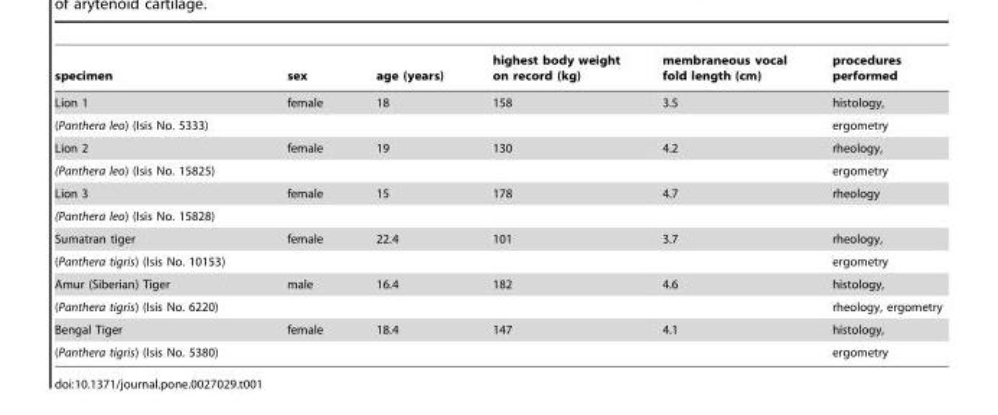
<table><thead><tr><td>specimen</td><td>sex</td><td>age (years)</td><td>highest body weight on record (kg)</td><td>membraneous vocal fold length (cm)</td><td>procedures performed</td></tr></thead><tbody><tr><td>Lion 1</td><td>female</td><td>18</td><td>158</td><td>3.5</td><td>histology,</td></tr><tr><td>(Panthera leo) (Isis No. 5333)</td><td></td><td></td><td></td><td></td><td>ergometry</td></tr><tr><td>Lion 2</td><td>female</td><td>19</td><td>130</td><td>4.2</td><td>rheology,</td></tr><tr><td>(Panthera leo) (Isis No. 15825)</td><td></td><td></td><td></td><td></td><td>ergometry</td></tr><tr><td>Lion 3</td><td>female</td><td>15</td><td>178</td><td>4.7</td><td>rheology</td></tr><tr><td colspan="6">(Panthera leo) (Isis No. 15828)</td></tr><tr><td>Sumatran tiger</td><td>female</td><td>22.4</td><td>101</td><td>3.7</td><td>rheology,</td></tr><tr><td>(Panthera tigris) (Isis No. 10153)</td><td></td><td></td><td></td><td></td><td>ergometry</td></tr><tr><td>Amur (Siberian) Tiger</td><td>male</td><td>16.4</td><td>182</td><td>4.6</td><td>histology,</td></tr><tr><td>(Panthera tigris) (Isis No. 6220)</td><td></td><td></td><td></td><td></td><td>rheology, ergometry</td></tr><tr><td>Bengal Tiger</td><td>female</td><td>18.4</td><td>147</td><td>4.1</td><td>histology,</td></tr><tr><td>(Panthera tigris) (Isis No. 5380)</td><td></td><td></td><td></td><td></td><td>ergometry</td></tr></tbody></table>